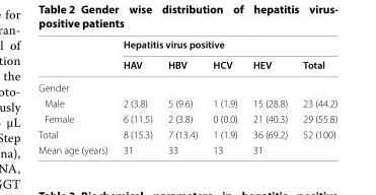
<table><thead><tr><td rowspan="2"></td><td colspan="5">Hepatitis virus positive</td></tr><tr><td>HAV</td><td>HBV</td><td>HCV</td><td>HEV</td><td>Total</td></tr></thead><tbody><tr><td colspan="6">Gender</td></tr><tr><td>Male</td><td>2 (3.8)</td><td>5 (9.6)</td><td>1 (1.9)</td><td>15 (28.8)</td><td>23 (44.2)</td></tr><tr><td>Female</td><td>6 (11.5)</td><td>2 (3.8)</td><td>0 (0.0)</td><td>21 (40.3)</td><td>29 (55.8)</td></tr><tr><td>Total</td><td>8 (15.3)</td><td>7 (13.4)</td><td>1 (1.9)</td><td>36 (69.2)</td><td>52 (100)</td></tr><tr><td>Mean age (years)</td><td>31</td><td>33</td><td>13</td><td>31</td><td></td></tr></tbody></table>